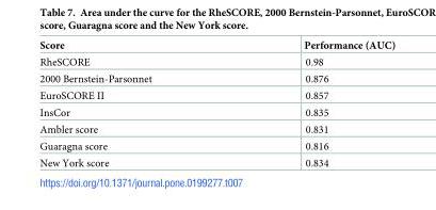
<table><thead><tr><td>Score</td><td>Performance (AUC)</td></tr></thead><tbody><tr><td>RheSCORE</td><td>0.98</td></tr><tr><td>2000 Bernstein-Parsonnet</td><td>0.876</td></tr><tr><td>EuroSCORE II</td><td>0.857</td></tr><tr><td>InsCor</td><td>0.835</td></tr><tr><td>Ambler score</td><td>0.831</td></tr><tr><td>Guaragna score</td><td>0.816</td></tr><tr><td>New York score</td><td>0.834</td></tr></tbody></table>